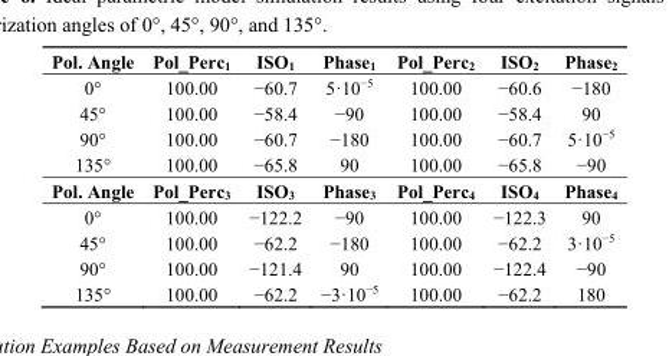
<table><tbody><tr><td>Pol. Angle</td><td>Pol_Perc1</td><td>ISO<sub>1</sub></td><td>Phase<sub>1</sub></td><td>Pol_Perc<sub>2</sub></td><td>ISO<sub>2</sub></td><td>Phase<sub>2</sub></td></tr><tr><td>0°</td><td>100.00</td><td>−60.7</td><td>5·10<sup>−5</sup></td><td>100.00</td><td>−60.6</td><td>−180</td></tr><tr><td>45°</td><td>100.00</td><td>−58.4</td><td>−90</td><td>100.00</td><td>−58.4</td><td>90</td></tr><tr><td>90°</td><td>100.00</td><td>−60.7</td><td>−180</td><td>100.00</td><td>−60.7</td><td>5·10<sup>−5</sup></td></tr><tr><td>135°</td><td>100.00</td><td>−65.8</td><td>90</td><td>100.00</td><td>−65.8</td><td>−90</td></tr><tr><td>Pol. Angle</td><td>Pol_Perc<sub>3</sub></td><td>ISO<sub>3</sub></td><td>Phase<sub>3</sub></td><td>Pol_Perc<sub>4</sub></td><td>ISO<sub>4</sub></td><td>Phase<sub>4</sub></td></tr><tr><td>0°</td><td>100.00</td><td>−122.2</td><td>−90</td><td>100.00</td><td>−122.3</td><td>90</td></tr><tr><td>45°</td><td>100.00</td><td>−62.2</td><td>−180</td><td>100.00</td><td>−62.2</td><td>3·10<sup>−5</sup></td></tr><tr><td>90°</td><td>100.00</td><td>−121.4</td><td>90</td><td>100.00</td><td>−122.4</td><td>−90</td></tr><tr><td>135°</td><td>100.00</td><td>−62.2</td><td>−3·10<sup>−5</sup></td><td>100.00</td><td>−62.2</td><td>180</td></tr></tbody></table>